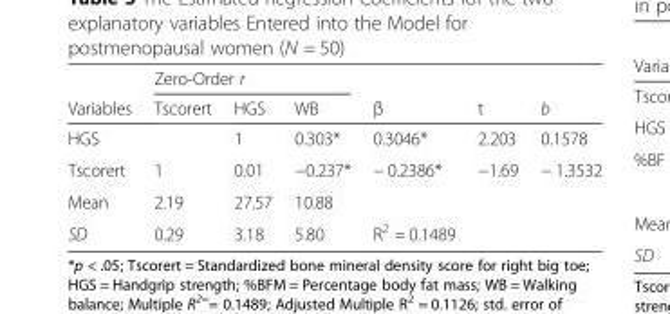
<table><thead><tr><td rowspan="2">Variables</td><td colspan="3">Zero-Order r</td><td rowspan="2">β</td><td rowspan="2">t</td><td rowspan="2">b</td></tr><tr><td>Tscorert</td><td>HGS</td><td>WB</td></tr></thead><tbody><tr><td>HGS</td><td></td><td>1</td><td>0.303*</td><td>0.3046*</td><td>2.203</td><td>0.1578</td></tr><tr><td>Tscorert</td><td>1</td><td>0.01</td><td>−0.237*</td><td>− 0.2386*</td><td>−1.69</td><td>− 1.3532</td></tr><tr><td>Mean</td><td>2.19</td><td>27.57</td><td>10.88</td><td></td><td></td><td></td></tr><tr><td>SD</td><td>0.29</td><td>3.18</td><td>5.80</td><td>R<sup>2</sup> = 0.1489</td><td></td><td></td></tr></tbody></table>